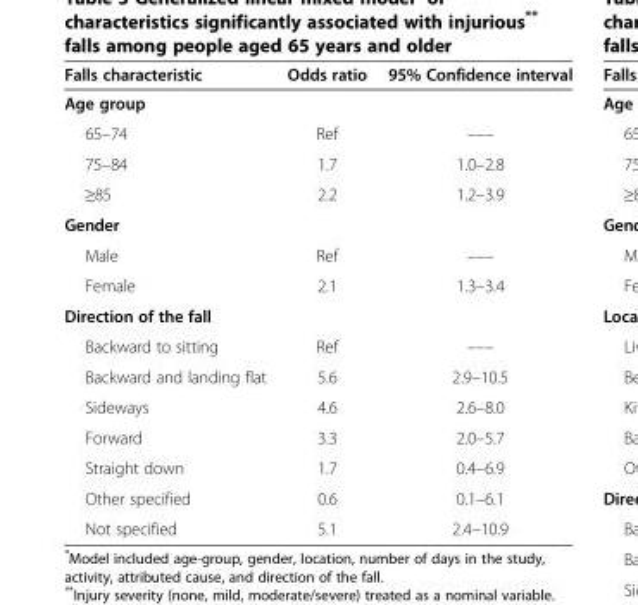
<table><thead><tr><td>Falls characteristic</td><td>Odds ratio</td><td>95% Confidence interval</td></tr></thead><tbody><tr><td colspan="3">Age group</td></tr><tr><td>65–74</td><td>Ref</td><td>–––</td></tr><tr><td>75–84</td><td>1.7</td><td>1.0–2.8</td></tr><tr><td>≥85</td><td>2.2</td><td>1.2–3.9</td></tr><tr><td colspan="3">Gender</td></tr><tr><td>Male</td><td>Ref</td><td>–––</td></tr><tr><td>Female</td><td>2.1</td><td>1.3–3.4</td></tr><tr><td colspan="3">Direction of the fall</td></tr><tr><td>Backward to sitting</td><td>Ref</td><td>–––</td></tr><tr><td>Backward and landing flat</td><td>5.6</td><td>2.9–10.5</td></tr><tr><td>Sideways</td><td>4.6</td><td>2.6–8.0</td></tr><tr><td>Forward</td><td>3.3</td><td>2.0–5.7</td></tr><tr><td>Straight down</td><td>1.7</td><td>0.4–6.9</td></tr><tr><td>Other specified</td><td>0.6</td><td>0.1–6.1</td></tr><tr><td>Not specified</td><td>5.1</td><td>2.4–10.9</td></tr></tbody></table>